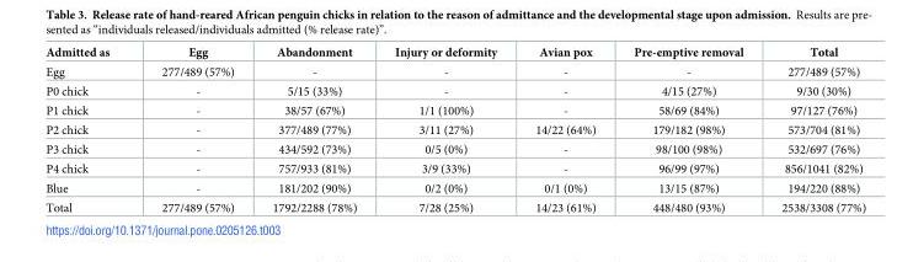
<table><thead><tr><td>Admitted as</td><td>Egg</td><td>Abandonment</td><td>Injury or deformity</td><td>Avian pox</td><td>Pre-emptive removal</td><td>Total</td></tr></thead><tbody><tr><td>Egg</td><td>277/489 (57%)</td><td>-</td><td>-</td><td>-</td><td>-</td><td>277/489 (57%)</td></tr><tr><td>P0 chick</td><td>-</td><td>5/15 (33%)</td><td>-</td><td>-</td><td>4/15 (27%)</td><td>9/30 (30%)</td></tr><tr><td>P1 chick</td><td>-</td><td>38/57 (67%)</td><td>1/1 (100%)</td><td>-</td><td>58/69 (84%)</td><td>97/127 (76%)</td></tr><tr><td>P2 chick</td><td>-</td><td>377/489 (77%)</td><td>3/11 (27%)</td><td>14/22 (64%)</td><td>179/182 (98%)</td><td>573/704 (81%)</td></tr><tr><td>P3 chick</td><td>-</td><td>434/592 (73%)</td><td>0/5 (0%)</td><td>-</td><td>98/100 (98%)</td><td>532/697 (76%)</td></tr><tr><td>P4 chick</td><td>-</td><td>757/933 (81%)</td><td>3/9 (33%)</td><td>-</td><td>96/99 (97%)</td><td>856/1041 (82%)</td></tr><tr><td>Blue</td><td>-</td><td>181/202 (90%)</td><td>0/2 (0%)</td><td>0/1 (0%)</td><td>13/15 (87%)</td><td>194/220 (88%)</td></tr><tr><td>Total</td><td>277/489 (57%)</td><td>1792/2288 (78%)</td><td>7/28 (25%)</td><td>14/23 (61%)</td><td>448/480 (93%)</td><td>2538/3308 (77%)</td></tr></tbody></table>